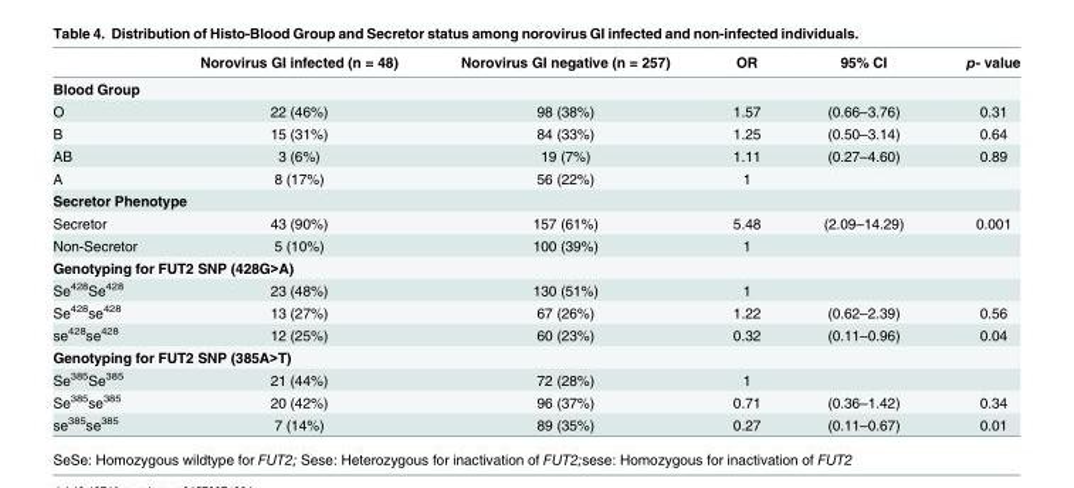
<table><thead><tr><td></td><td>Norovirus GI infected (n = 48)</td><td>Norovirus GI negative (n = 257)</td><td>OR</td><td>95% CI</td><td>p- value</td></tr></thead><tbody><tr><td colspan="6">Blood Group</td></tr><tr><td>O</td><td>22 (46%)</td><td>98 (38%)</td><td>1.57</td><td>(0.66–3.76)</td><td>0.31</td></tr><tr><td>B</td><td>15 (31%)</td><td>84 (33%)</td><td>1.25</td><td>(0.50–3.14)</td><td>0.64</td></tr><tr><td>AB</td><td>3 (6%)</td><td>19 (7%)</td><td>1.11</td><td>(0.27–4.60)</td><td>0.89</td></tr><tr><td>A</td><td>8 (17%)</td><td>56 (22%)</td><td>1</td><td></td><td></td></tr><tr><td colspan="6">Secretor Phenotype</td></tr><tr><td>Secretor</td><td>43 (90%)</td><td>157 (61%)</td><td>5.48</td><td>(2.09–14.29)</td><td>0.001</td></tr><tr><td>Non-Secretor</td><td>5 (10%)</td><td>100 (39%)</td><td>1</td><td></td><td></td></tr><tr><td colspan="6">Genotyping for FUT2 SNP (428G&gt;A)</td></tr><tr><td>Se<sup>428</sup>Se<sup>428</sup></td><td>23 (48%)</td><td>130 (51%)</td><td>1</td><td></td><td></td></tr><tr><td>Se<sup>428</sup>se<sup>428</sup></td><td>13 (27%)</td><td>67 (26%)</td><td>1.22</td><td>(0.62–2.39)</td><td>0.56</td></tr><tr><td>se<sup>428</sup>se<sup>428</sup></td><td>12 (25%)</td><td>60 (23%)</td><td>0.32</td><td>(0.11–0.96)</td><td>0.04</td></tr><tr><td colspan="6">Genotyping for FUT2 SNP (385A&gt;T)</td></tr><tr><td>Se<sup>385</sup>Se<sup>385</sup></td><td>21 (44%)</td><td>72 (28%)</td><td>1</td><td></td><td></td></tr><tr><td>Se<sup>385</sup>se<sup>385</sup></td><td>20 (42%)</td><td>96 (37%)</td><td>0.71</td><td>(0.36–1.42)</td><td>0.34</td></tr><tr><td>se<sup>385</sup>se<sup>385</sup></td><td>7 (14%)</td><td>89 (35%)</td><td>0.27</td><td>(0.11–0.67)</td><td>0.01</td></tr></tbody></table>